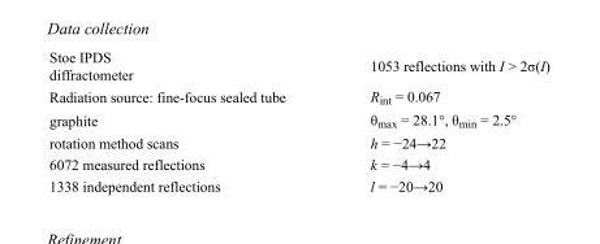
<table><tbody><tr><td>Stoe IPDS diffractometer</td><td>1053 reflections with I &gt; 2σ(I)</td></tr><tr><td>Radiation source: fine-focus sealed tube</td><td>R<sub>int</sub> = 0.067</td></tr><tr><td>graphite</td><td>θ<sub>max</sub> = 28.1°, θ<sub>min</sub> = 2.5°</td></tr><tr><td>rotation method scans</td><td>h = −24→22</td></tr><tr><td>6072 measured reflections</td><td>k = −4→4</td></tr><tr><td>1338 independent reflections</td><td>l = −20→20</td></tr></tbody></table>